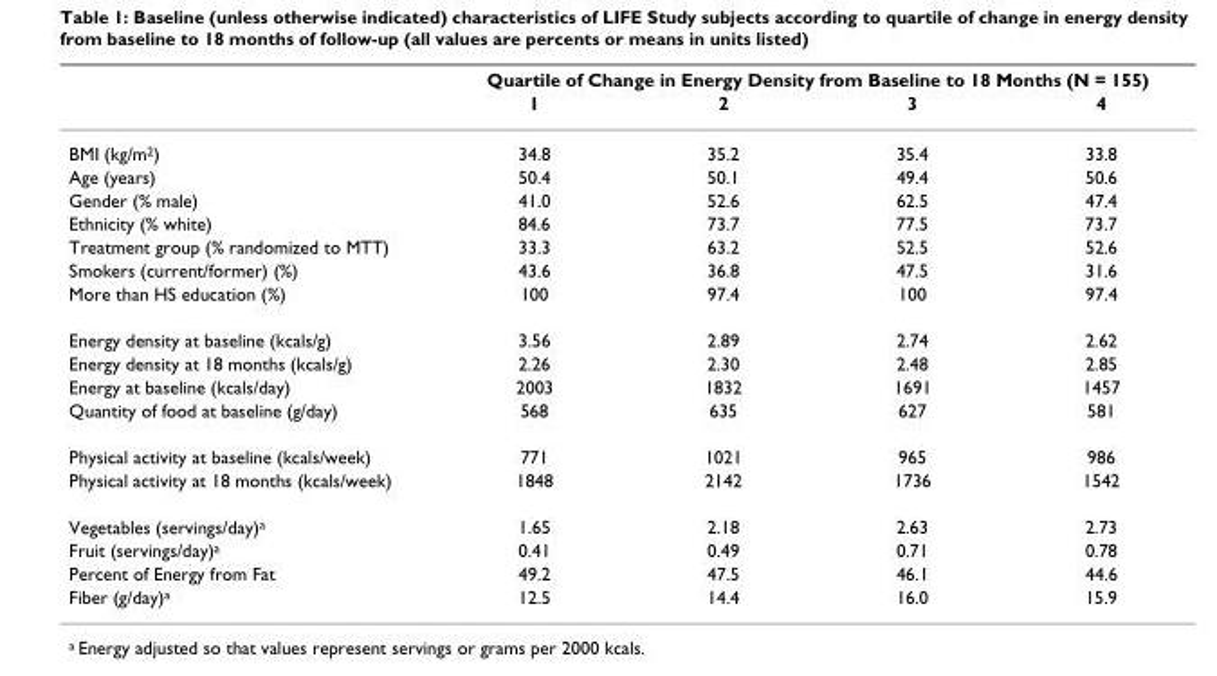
<table><thead><tr><td rowspan="2"></td><td colspan="4">Quartile of Change in Energy Density from Baseline to 18 Months (N = 155)</td></tr><tr><td>1</td><td>2</td><td>3</td><td>4</td></tr></thead><tbody><tr><td>BMI (kg/m<sup>2</sup>)</td><td>34.8</td><td>35.2</td><td>35.4</td><td>33.8</td></tr><tr><td>Age (years)</td><td>50.4</td><td>50.1</td><td>49.4</td><td>50.6</td></tr><tr><td>Gender (% male)</td><td>41.0</td><td>52.6</td><td>62.5</td><td>47.4</td></tr><tr><td>Ethnicity (% white)</td><td>84.6</td><td>73.7</td><td>77.5</td><td>73.7</td></tr><tr><td>Treatment group (% randomized to MTT)</td><td>33.3</td><td>63.2</td><td>52.5</td><td>52.6</td></tr><tr><td>Smokers (current/former) (%)</td><td>43.6</td><td>36.8</td><td>47.5</td><td>31.6</td></tr><tr><td>More than HS education (%)</td><td>100</td><td>97.4</td><td>100</td><td>97.4</td></tr><tr><td>Energy density at baseline (kcals/g)</td><td>3.56</td><td>2.89</td><td>2.74</td><td>2.62</td></tr><tr><td>Energy density at 18 months (kcals/g)</td><td>2.26</td><td>2.30</td><td>2.48</td><td>2.85</td></tr><tr><td>Energy at baseline (kcals/day)</td><td>2003</td><td>1832</td><td>1691</td><td>1457</td></tr><tr><td>Quantity of food at baseline (g/day)</td><td>568</td><td>635</td><td>627</td><td>581</td></tr><tr><td>Physical activity at baseline (kcals/week)</td><td>771</td><td>1021</td><td>965</td><td>986</td></tr><tr><td>Physical activity at 18 months (kcals/week)</td><td>1848</td><td>2142</td><td>1736</td><td>1542</td></tr><tr><td>Vegetables (servings/day)<sup>a</sup></td><td>1.65</td><td>2.18</td><td>2.63</td><td>2.73</td></tr><tr><td>Fruit (servings/day)<sup>a</sup></td><td>0.41</td><td>0.49</td><td>0.71</td><td>0.78</td></tr><tr><td>Percent of Energy from Fat</td><td>49.2</td><td>47.5</td><td>46.1</td><td>44.6</td></tr><tr><td>Fiber (g/day)<sup>a</sup></td><td>12.5</td><td>14.4</td><td>16.0</td><td>15.9</td></tr></tbody></table>